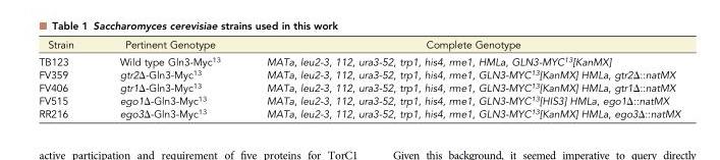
<table><thead><tr><td>Strain</td><td>Pertinent Genotype</td><td>Complete Genotype</td></tr></thead><tbody><tr><td>TB123</td><td>Wild type Gln3-Myc<sup>13</sup></td><td>MATa, leu2-3, 112, ura3-52, trp1, his4, rme1, HMLa, GLN3-MYC<sup>13</sup>[KanMX]</td></tr><tr><td>FV359</td><td>gtr2Δ-Gln3-Myc<sup>13</sup></td><td>MATa, leu2-3, 112, ura3-52, trp1, his4, rme1, GLN3-MYC<sup>13</sup>[KanMX] HMLa, gtr2Δ::natMX</td></tr><tr><td>FV406</td><td>gtr1Δ-Gln3-Myc<sup>13</sup></td><td>MATa, leu2-3, 112, ura3-52, trp1, his4, rme1, GLN3-MYC<sup>13</sup>[KanMX] HMLa, gtr1Δ::natMX</td></tr><tr><td>FV515</td><td>ego1Δ-Gln3-Myc<sup>13</sup></td><td>MATa, leu2-3, 112, ura3-52, trp1, his4, rme1, GLN3-MYC<sup>13</sup>[HIS3] HMLa, ego1Δ::natMX</td></tr><tr><td>RR216</td><td>ego3Δ-Gln3-Myc<sup>13</sup></td><td>MATa, leu2-3, 112, ura3-52, trp1, his4, rme1, GLN3-MYC<sup>13</sup>[KanMX] HMLa, ego3Δ::natMX</td></tr></tbody></table>